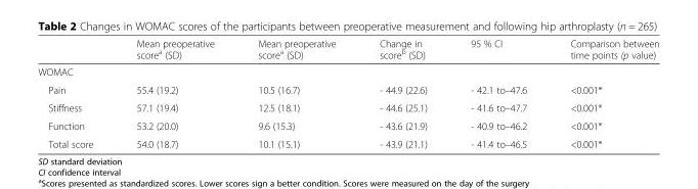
<table><thead><tr><td></td><td>Mean preoperative score<sup>a</sup> (SD)</td><td>Mean preoperative score<sup>a</sup> (SD)</td><td>Change in score<sup>b</sup> (SD)</td><td>95 % CI</td><td>Comparison between time points (p value)</td></tr></thead><tbody><tr><td colspan="6">WOMAC</td></tr><tr><td>Pain</td><td>55.4 (19.2)</td><td>10.5 (16.7)</td><td>- 44.9 (22.6)</td><td>- 42.1 to–47.6</td><td>&lt;0.001*</td></tr><tr><td>Stiffness</td><td>57.1 (19.4)</td><td>12.5 (18.1)</td><td>- 44.6 (25.1)</td><td>- 41.6 to–47.7</td><td>&lt;0.001*</td></tr><tr><td>Function</td><td>53.2 (20.0)</td><td>9.6 (15.3)</td><td>- 43.6 (21.9)</td><td>- 40.9 to–46.2</td><td>&lt;0.001*</td></tr><tr><td>Total score</td><td>54.0 (18.7)</td><td>10.1 (15.1)</td><td>- 43.9 (21.1)</td><td>- 41.4 to–46.5</td><td>&lt;0.001*</td></tr></tbody></table>